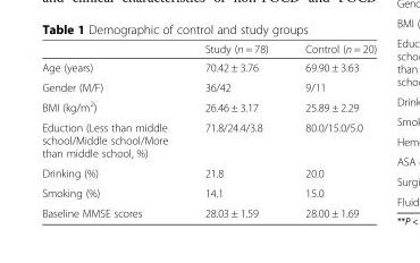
<table><thead><tr><td></td><td>Study (n = 78)</td><td>Control (n = 20)</td></tr></thead><tbody><tr><td>Age (years)</td><td>70.42 ± 3.76</td><td>69.90 ± 3.63</td></tr><tr><td>Gender (M/F)</td><td>36/42</td><td>9/11</td></tr><tr><td>BMI (kg/m<sup>2</sup>)</td><td>26.46 ± 3.17</td><td>25.89 ± 2.29</td></tr><tr><td>Eduction (Less than middle school/Middle school/More than middle school, %)</td><td>71.8/24.4/3.8</td><td>80.0/15.0/5.0</td></tr><tr><td>Drinking (%)</td><td>21.8</td><td>20.0</td></tr><tr><td>Smoking (%)</td><td>14.1</td><td>15.0</td></tr><tr><td>Baseline MMSE scores</td><td>28.03 ± 1.59</td><td>28.00 ± 1.69</td></tr></tbody></table>